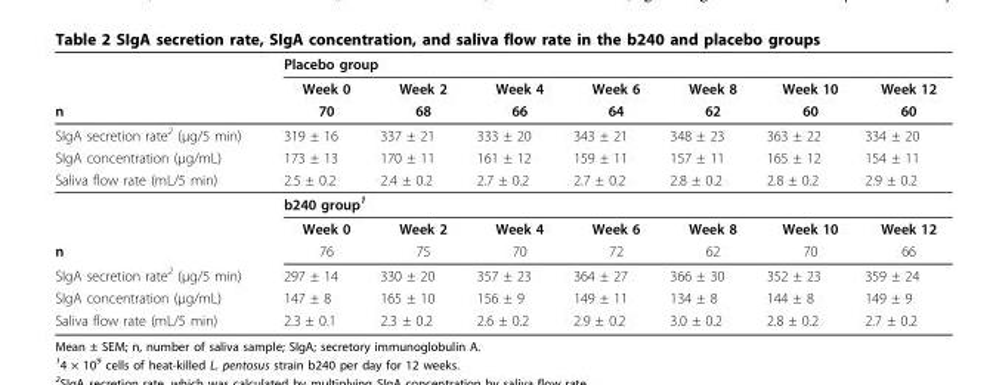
<table><thead><tr><td rowspan="3">n</td><td colspan="7">Placebo group</td></tr><tr><td rowspan="2">Week 0 70</td><td rowspan="2">Week 2 68</td><td rowspan="2">Week 4 66</td><td rowspan="2">Week 6 64</td><td rowspan="2">Week 8 62</td><td rowspan="2">Week 10 60</td><td rowspan="2">Week 12 60</td></tr><tr></tr></thead><tbody><tr><td>SIgA secretion rate2 (μg/5 min)</td><td>319 ± 16</td><td>337 ± 21</td><td>333 ± 20</td><td>343 ± 21</td><td>348 ± 23</td><td>363 ± 22</td><td>334 ± 20</td></tr><tr><td>SIgA concentration (μg/mL)</td><td>173 ± 13</td><td>170 ± 11</td><td>161 ± 12</td><td>159 ± 11</td><td>157 ± 11</td><td>165 ± 12</td><td>154 ± 11</td></tr><tr><td rowspan="3">Saliva flow rate (mL/5 min)</td><td>2.5 ± 0.2</td><td>2.4 ± 0.2</td><td>2.7 ± 0.2</td><td>2.7 ± 0.2</td><td>2.8 ± 0.2</td><td>2.8 ± 0.2</td><td>2.9 ± 0.2</td></tr><tr><td colspan="7">b240 group<sup>1</sup></td></tr><tr><td>Week 0</td><td>Week 2</td><td>Week 4</td><td>Week 6</td><td>Week 8</td><td>Week 10</td><td>Week 12</td></tr><tr><td>n</td><td>76</td><td>75</td><td>70</td><td>72</td><td>62</td><td>70</td><td>66</td></tr><tr><td>SIgA secretion rate2 (μg/5 min)</td><td>297 ± 14</td><td>330 ± 20</td><td>357 ± 23</td><td>364 ± 27</td><td>366 ± 30</td><td>352 ± 23</td><td>359 ± 24</td></tr><tr><td>SIgA concentration (μg/mL)</td><td>147 ± 8</td><td>165 ± 10</td><td>156 ± 9</td><td>149 ± 11</td><td>134 ± 8</td><td>144 ± 8</td><td>149 ± 9</td></tr><tr><td>Saliva flow rate (mL/5 min)</td><td>2.3 ± 0.1</td><td>2.3 ± 0.2</td><td>2.6 ± 0.2</td><td>2.9 ± 0.2</td><td>3.0 ± 0.2</td><td>2.8 ± 0.2</td><td>2.7 ± 0.2</td></tr></tbody></table>